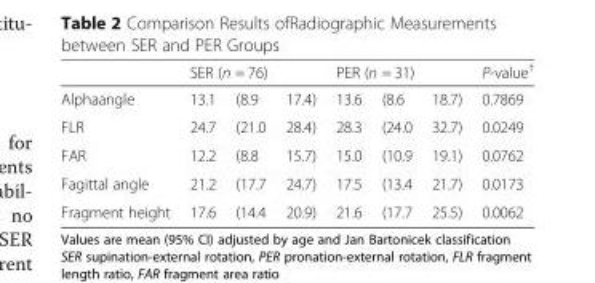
<table><thead><tr><td rowspan="2">Alphaangle</td><td colspan="3">SER (n = 76)</td><td colspan="3">PER (n = 31)</td><td rowspan="2">P-value<sup>†</sup> 0.7869</td></tr><tr><td>13.1</td><td>(8.9</td><td>17.4)</td><td>13.6</td><td>(8.6</td><td>18.7)</td></tr></thead><tbody><tr><td>FLR</td><td>24.7</td><td>(21.0</td><td>28.4)</td><td>28.3</td><td>(24.0</td><td>32.7)</td><td>0.0249</td></tr><tr><td>FAR</td><td>12.2</td><td>(8.8</td><td>15.7)</td><td>15.0</td><td>(10.9</td><td>19.1)</td><td>0.0762</td></tr><tr><td>Fagittal angle</td><td>21.2</td><td>(17.7</td><td>24.7)</td><td>17.5</td><td>(13.4</td><td>21.7)</td><td>0.0173</td></tr><tr><td>Fragment height</td><td>17.6</td><td>(14.4</td><td>20.9)</td><td>21.6</td><td>(17.7</td><td>25.5)</td><td>0.0062</td></tr></tbody></table>